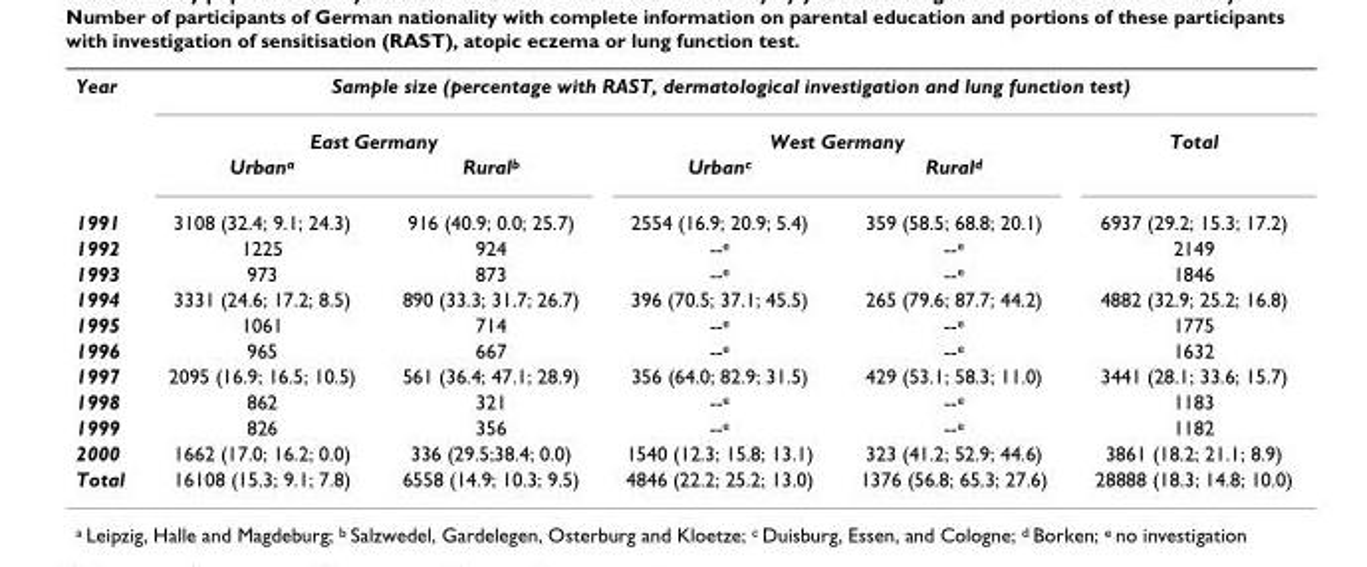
<table><tbody><tr><td rowspan="3">Year</td><td colspan="5">Sample size (percentage with RAST, dermatological investigation and lung function test)</td></tr><tr><td colspan="2">East Germany</td><td colspan="2">West Germany</td><td>Total</td></tr><tr><td>Urbana</td><td>Ruralb</td><td>Urbanc</td><td>Rurald</td><td></td></tr><tr><td>1991</td><td>3108 (32.4; 9.1; 24.3)</td><td>916 (40.9; 0.0; 25.7)</td><td>2554 (16.9; 20.9; 5.4)</td><td>359 (58.5; 68.8; 20.1)</td><td>6937 (29.2; 15.3; 17.2)</td></tr><tr><td>1992</td><td>1225</td><td>924</td><td>--e</td><td>--e</td><td>2149</td></tr><tr><td>1993</td><td>973</td><td>873</td><td>--e</td><td>--e</td><td>1846</td></tr><tr><td>1994</td><td>3331 (24.6; 17.2; 8.5)</td><td>890 (33.3; 31.7; 26.7)</td><td>396 (70.5; 37.1; 45.5)</td><td>265 (79.6; 87.7; 44.2)</td><td>4882 (32.9; 25.2; 16.8)</td></tr><tr><td>1995</td><td>1061</td><td>714</td><td>--e</td><td>--e</td><td>1775</td></tr><tr><td>1996</td><td>965</td><td>667</td><td>--e</td><td>--e</td><td>1632</td></tr><tr><td>1997</td><td>2095 (16.9; 16.5; 10.5)</td><td>561 (36.4; 47.1; 28.9)</td><td>356 (64.0; 82.9; 31.5)</td><td>429 (53.1; 58.3; 11.0)</td><td>3441 (28.1; 33.6; 15.7)</td></tr><tr><td>1998</td><td>862</td><td>321</td><td>--e</td><td>--e</td><td>1183</td></tr><tr><td>1999</td><td>826</td><td>356</td><td>--e</td><td>--e</td><td>1182</td></tr><tr><td>2000</td><td>1662 (17.0; 16.2; 0.0)</td><td>336 (29.5;38.4; 0.0)</td><td>1540 (12.3; 15.8; 13.1)</td><td>323 (41.2; 52.9; 44.6)</td><td>3861 (18.2; 21.1; 8.9)</td></tr><tr><td>Total</td><td>16108 (15.3; 9.1; 7.8)</td><td>6558 (14.9; 10.3; 9.5)</td><td>4846 (22.2; 25.2; 13.0)</td><td>1376 (56.8; 65.3; 27.6)</td><td>28888 (18.3; 14.8; 10.0)</td></tr></tbody></table>